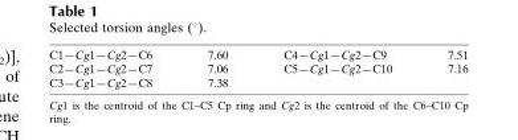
<table><tbody><tr><td>C1—Cg1—Cg2—C6</td><td>7.60</td><td>C4—Cg1—Cg2—C9</td><td>7.51</td></tr><tr><td>C2—Cg1—Cg2—C7</td><td>7.06</td><td>C5—Cg1—Cg2—C10</td><td>7.16</td></tr><tr><td>C3—Cg1—Cg2—C8</td><td>7.38</td><td></td><td></td></tr></tbody></table>